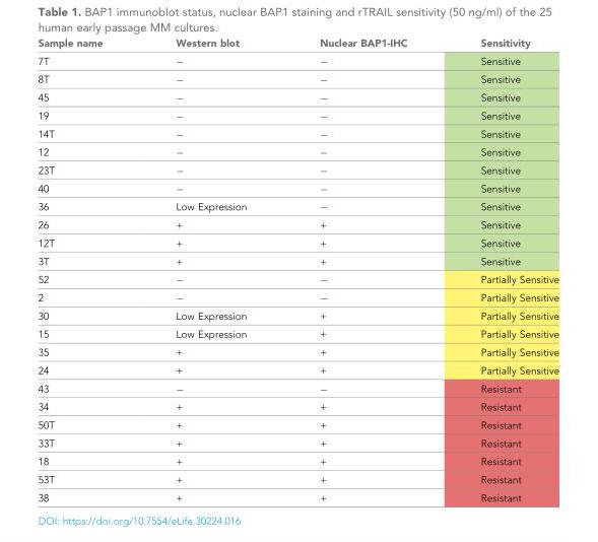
<table><thead><tr><td>Sample name</td><td>Western blot</td><td>Nuclear BAP1-IHC</td><td>Sensitivity</td></tr></thead><tbody><tr><td>7T</td><td>−</td><td>−</td><td>Sensitive</td></tr><tr><td>8T</td><td>−</td><td>−</td><td>Sensitive</td></tr><tr><td>45</td><td>−</td><td>−</td><td>Sensitive</td></tr><tr><td>19</td><td>−</td><td>−</td><td>Sensitive</td></tr><tr><td>14T</td><td>−</td><td>−</td><td>Sensitive</td></tr><tr><td>12</td><td>−</td><td>−</td><td>Sensitive</td></tr><tr><td>23T</td><td>−</td><td>−</td><td>Sensitive</td></tr><tr><td>40</td><td>−</td><td>−</td><td>Sensitive</td></tr><tr><td>36</td><td>Low Expression</td><td>−</td><td>Sensitive</td></tr><tr><td>26</td><td>+</td><td>+</td><td>Sensitive</td></tr><tr><td>12T</td><td>+</td><td>+</td><td>Sensitive</td></tr><tr><td>3T</td><td>+</td><td>+</td><td>Sensitive</td></tr><tr><td>52</td><td>−</td><td>−</td><td>Partially Sensitive</td></tr><tr><td>2</td><td>−</td><td>−</td><td>Partially Sensitive</td></tr><tr><td>30</td><td>Low Expression</td><td>+</td><td>Partially Sensitive</td></tr><tr><td>15</td><td>Low Expression</td><td>+</td><td>Partially Sensitive</td></tr><tr><td>35</td><td>+</td><td>+</td><td>Partially Sensitive</td></tr><tr><td>24</td><td>+</td><td>+</td><td>Partially Sensitive</td></tr><tr><td>43</td><td>−</td><td>−</td><td>Resistant</td></tr><tr><td>34</td><td>+</td><td>+</td><td>Resistant</td></tr><tr><td>50T</td><td>+</td><td>+</td><td>Resistant</td></tr><tr><td>33T</td><td>+</td><td>+</td><td>Resistant</td></tr><tr><td>18</td><td>+</td><td>+</td><td>Resistant</td></tr><tr><td>53T</td><td>+</td><td>+</td><td>Resistant</td></tr><tr><td>38</td><td>+</td><td>+</td><td>Resistant</td></tr></tbody></table>